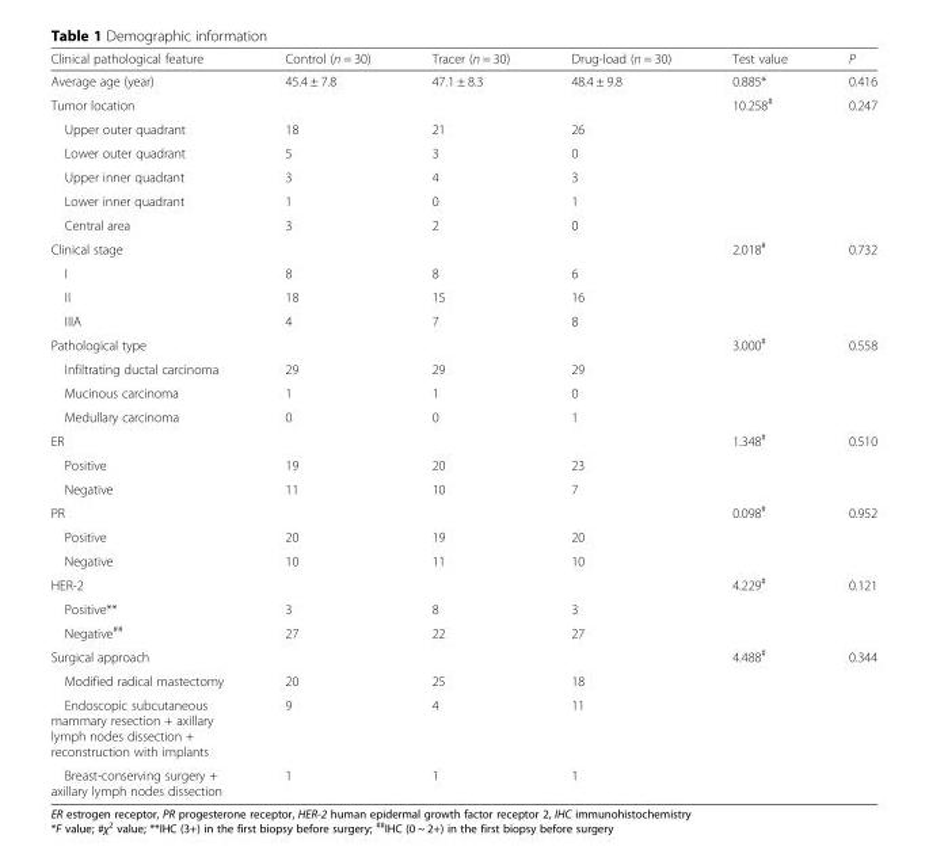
<table><thead><tr><td>Clinical pathological feature</td><td>Control (n = 30)</td><td>Tracer (n = 30)</td><td>Drug-load (n = 30)</td><td>Test value</td><td>P</td></tr></thead><tbody><tr><td>Average age (year)</td><td>45.4 ± 7.8</td><td>47.1 ± 8.3</td><td>48.4 ± 9.8</td><td>0.885*</td><td>0.416</td></tr><tr><td>Tumor location</td><td></td><td></td><td></td><td>10.258<sup>#</sup></td><td>0.247</td></tr><tr><td>Upper outer quadrant</td><td>18</td><td>21</td><td>26</td><td></td><td></td></tr><tr><td>Lower outer quadrant</td><td>5</td><td>3</td><td>0</td><td></td><td></td></tr><tr><td>Upper inner quadrant</td><td>3</td><td>4</td><td>3</td><td></td><td></td></tr><tr><td>Lower inner quadrant</td><td>1</td><td>0</td><td>1</td><td></td><td></td></tr><tr><td>Central area</td><td>3</td><td>2</td><td>0</td><td></td><td></td></tr><tr><td>Clinical stage</td><td></td><td></td><td></td><td>2.018<sup>#</sup></td><td>0.732</td></tr><tr><td>I</td><td>8</td><td>8</td><td>6</td><td></td><td></td></tr><tr><td>II</td><td>18</td><td>15</td><td>16</td><td></td><td></td></tr><tr><td>IIIA</td><td>4</td><td>7</td><td>8</td><td></td><td></td></tr><tr><td>Pathological type</td><td></td><td></td><td></td><td>3.000<sup>#</sup></td><td>0.558</td></tr><tr><td>Infiltrating ductal carcinoma</td><td>29</td><td>29</td><td>29</td><td></td><td></td></tr><tr><td>Mucinous carcinoma</td><td>1</td><td>1</td><td>0</td><td></td><td></td></tr><tr><td>Medullary carcinoma</td><td>0</td><td>0</td><td>1</td><td></td><td></td></tr><tr><td>ER</td><td></td><td></td><td></td><td>1.348<sup>#</sup></td><td>0.510</td></tr><tr><td>Positive</td><td>19</td><td>20</td><td>23</td><td></td><td></td></tr><tr><td>Negative</td><td>11</td><td>10</td><td>7</td><td></td><td></td></tr><tr><td>PR</td><td></td><td></td><td></td><td>0.098<sup>#</sup></td><td>0.952</td></tr><tr><td>Positive</td><td>20</td><td>19</td><td>20</td><td></td><td></td></tr><tr><td>Negative</td><td>10</td><td>11</td><td>10</td><td></td><td></td></tr><tr><td>HER-2</td><td></td><td></td><td></td><td>4.229<sup>#</sup></td><td>0.121</td></tr><tr><td>Positive**</td><td>3</td><td>8</td><td>3</td><td></td><td></td></tr><tr><td>Negative<sup>##</sup></td><td>27</td><td>22</td><td>27</td><td></td><td></td></tr><tr><td>Surgical approach</td><td></td><td></td><td></td><td>4.488<sup>#</sup></td><td>0.344</td></tr><tr><td>Modified radical mastectomy</td><td>20</td><td>25</td><td>18</td><td></td><td></td></tr><tr><td>Endoscopic subcutaneous mammary resection + axillary lymph nodes dissection + reconstruction with implants</td><td>9</td><td>4</td><td>11</td><td></td><td></td></tr><tr><td>Breast-conserving surgery + axillary lymph nodes dissection</td><td>1</td><td>1</td><td>1</td><td></td><td></td></tr></tbody></table>